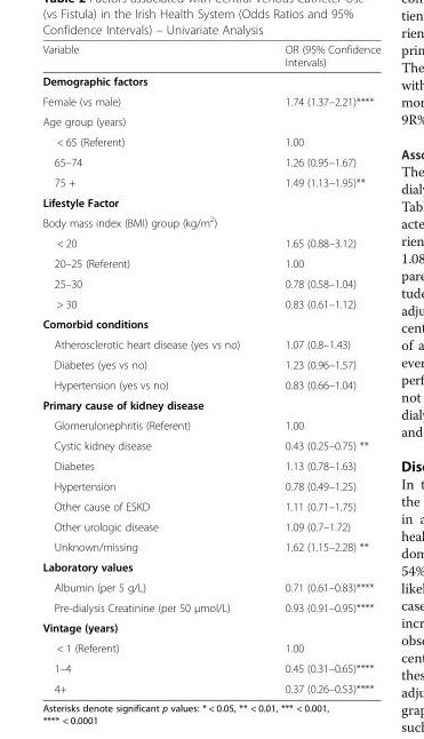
<table><thead><tr><td>Variable</td><td>OR (95% Confidence Intervals)</td></tr></thead><tbody><tr><td colspan="2">Demographic factors</td></tr><tr><td>Female (vs male)</td><td>1.74 (1.37–2.21)****</td></tr><tr><td colspan="2">Age group (years)</td></tr><tr><td>&lt; 65 (Referent)</td><td>1.00</td></tr><tr><td>65–74</td><td>1.26 (0.95–1.67)</td></tr><tr><td>75 +</td><td>1.49 (1.13–1.95)**</td></tr><tr><td colspan="2">Lifestyle Factor</td></tr><tr><td colspan="2">Body mass index (BMI) group (kg/m<sup>2</sup>)</td></tr><tr><td>&lt; 20</td><td>1.65 (0.88–3.12)</td></tr><tr><td>20–25 (Referent)</td><td>1.00</td></tr><tr><td>25–30</td><td>0.78 (0.58–1.04)</td></tr><tr><td>&gt; 30</td><td>0.83 (0.61–1.12)</td></tr><tr><td colspan="2">Comorbid conditions</td></tr><tr><td>Atherosclerotic heart disease (yes vs no)</td><td>1.07 (0.8–1.43)</td></tr><tr><td>Diabetes (yes vs no)</td><td>1.23 (0.96–1.57)</td></tr><tr><td>Hypertension (yes vs no)</td><td>0.83 (0.66–1.04)</td></tr><tr><td colspan="2">Primary cause of kidney disease</td></tr><tr><td>Glomerulonephritis (Referent)</td><td>1.00</td></tr><tr><td>Cystic kidney disease</td><td>0.43 (0.25–0.75) **</td></tr><tr><td>Diabetes</td><td>1.13 (0.78–1.63)</td></tr><tr><td>Hypertension</td><td>0.78 (0.49–1.25)</td></tr><tr><td>Other cause of ESKD</td><td>1.11 (0.71–1.75)</td></tr><tr><td>Other urologic disease</td><td>1.09 (0.7–1.72)</td></tr><tr><td>Unknown/missing</td><td>1.62 (1.15–2.28) **</td></tr><tr><td colspan="2">Laboratory values</td></tr><tr><td>Albumin (per 5 g/L)</td><td>0.71 (0.61–0.83)****</td></tr><tr><td>Pre-dialysis Creatinine (per 50 μmol/L)</td><td>0.93 (0.91–0.95)****</td></tr><tr><td colspan="2">Vintage (years)</td></tr><tr><td>&lt; 1 (Referent)</td><td>1.00</td></tr><tr><td>1–4</td><td>0.45 (0.31–0.65)****</td></tr><tr><td>4+</td><td>0.37 (0.26–0.53)****</td></tr></tbody></table>